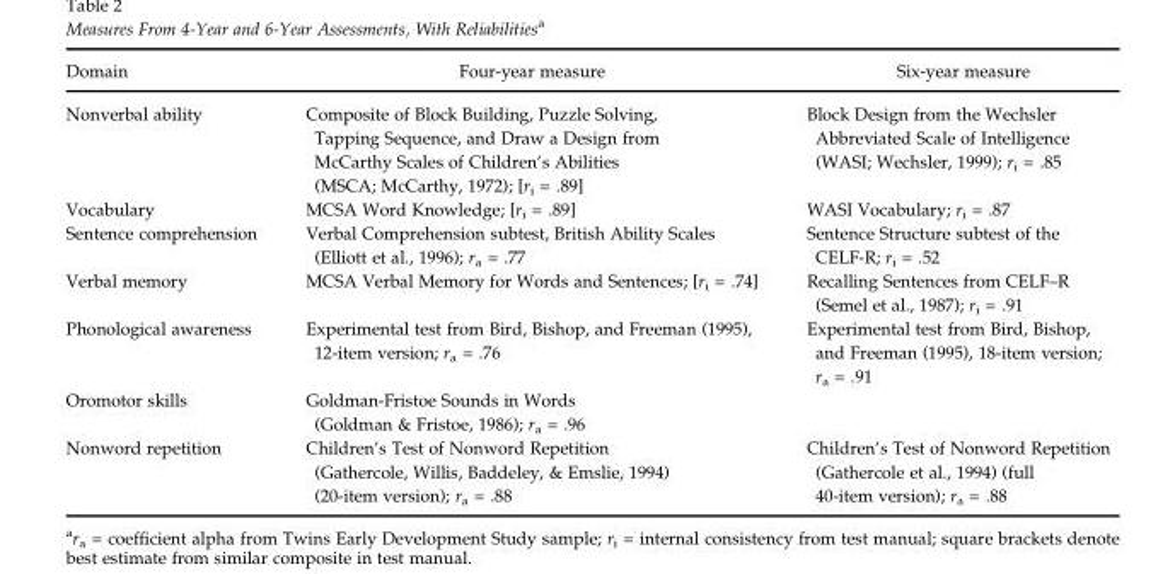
<table><thead><tr><td>Domain</td><td>Four-year measure</td><td>Six-year measure</td></tr></thead><tbody><tr><td>Nonverbal ability</td><td>Composite of Block Building, Puzzle Solving, Tapping Sequence, and Draw a Design from McCarthy Scales of Children’s Abilities (MSCA; McCarthy, 1972); [r<sub>i</sub> = .89]</td><td>Block Design from the Wechsler Abbreviated Scale of Intelligence (WASI; Wechsler, 1999); r<sub>i</sub> = .85</td></tr><tr><td>Vocabulary</td><td>MCSA Word Knowledge; [r<sub>i</sub> = .89]</td><td>WASI Vocabulary; r<sub>i</sub> = .87</td></tr><tr><td>Sentence comprehension</td><td>Verbal Comprehension subtest, British Ability Scales (Elliott et al., 1996); r<sup>a</sup> = .77</td><td>Sentence Structure subtest of the CELF-R; r<sub>i</sub> = .52</td></tr><tr><td>Verbal memory</td><td>MCSA Verbal Memory for Words and Sentences; [r<sub>i</sub> = .74]</td><td>Recalling Sentences from CELF–R (Semel et al., 1987); r<sub>i</sub> = .91</td></tr><tr><td>Phonological awareness</td><td>Experimental test from Bird, Bishop, and Freeman (1995), 12-item version; r<sup>a</sup> = .76</td><td>Experimental test from Bird, Bishop, and Freeman (1995), 18-item version; r<sup>a</sup> = .91</td></tr><tr><td>Oromotor skills</td><td>Goldman-Fristoe Sounds in Words (Goldman &amp; Fristoe, 1986); r<sup>a</sup> = .96</td><td></td></tr><tr><td>Nonword repetition</td><td>Children’s Test of Nonword Repetition (Gathercole, Willis, Baddeley, &amp; Emslie, 1994) (20-item version); r<sup>a</sup> = .88</td><td>Children’s Test of Nonword Repetition (Gathercole et al., 1994) (full 40-item version); r<sup>a</sup> = .88</td></tr></tbody></table>